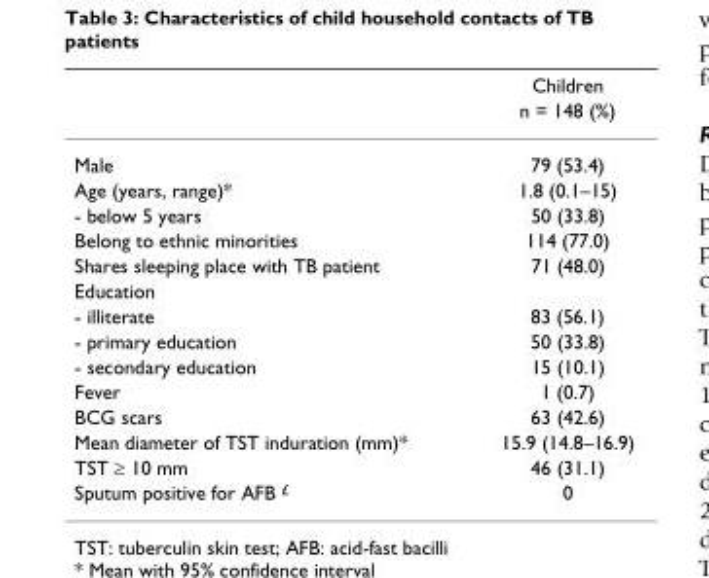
<table><thead><tr><td rowspan="2"></td><td rowspan="2">Children n = 148 (%)</td></tr><tr></tr></thead><tbody><tr><td>Male</td><td>79 (53.4)</td></tr><tr><td>Age (years, range)*</td><td>1.8 (0.1–15)</td></tr><tr><td>- below 5 years</td><td>50 (33.8)</td></tr><tr><td>Belong to ethnic minorities</td><td>114 (77.0)</td></tr><tr><td>Shares sleeping place with TB patient</td><td>71 (48.0)</td></tr><tr><td colspan="2">Education</td></tr><tr><td>- illiterate</td><td>83 (56.1)</td></tr><tr><td>- primary education</td><td>50 (33.8)</td></tr><tr><td>- secondary education</td><td>15 (10.1)</td></tr><tr><td>Fever</td><td>1 (0.7)</td></tr><tr><td>BCG scars</td><td>63 (42.6)</td></tr><tr><td>Mean diameter of TST induration (mm)*</td><td>15.9 (14.8–16.9)</td></tr><tr><td>TST ≥ 10 mm</td><td>46 (31.1)</td></tr><tr><td>Sputum positive for AFB <sup>£</sup></td><td>0</td></tr></tbody></table>